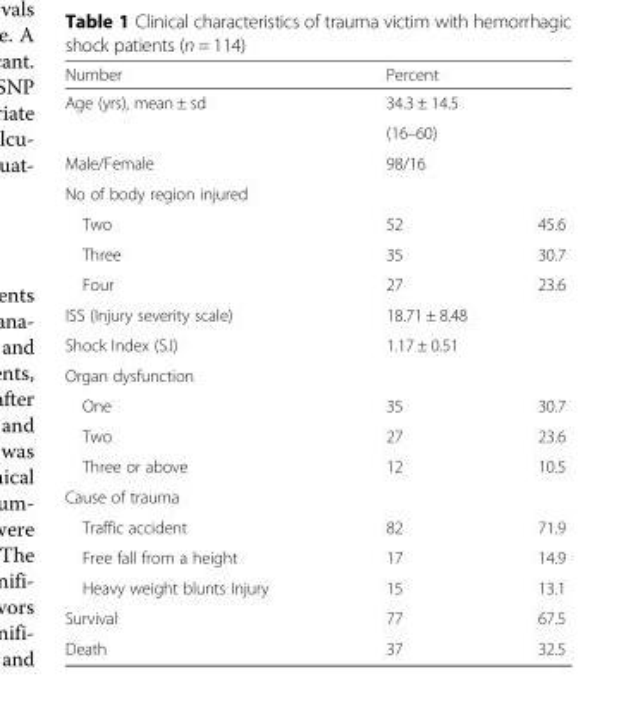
<table><thead><tr><td>Number</td><td colspan="2">Percent</td></tr></thead><tbody><tr><td rowspan="2">Age (yrs), mean ± sd</td><td colspan="2">34.3 ± 14.5</td></tr><tr><td colspan="2">(16–60)</td></tr><tr><td>Male/Female</td><td colspan="2">98/16</td></tr><tr><td colspan="3">No of body region injured</td></tr><tr><td>Two</td><td>52</td><td>45.6</td></tr><tr><td>Three</td><td>35</td><td>30.7</td></tr><tr><td>Four</td><td>27</td><td>23.6</td></tr><tr><td>ISS (Injury severity scale)</td><td colspan="2">18.71 ± 8.48</td></tr><tr><td>Shock Index (S.I)</td><td colspan="2">1.17 ± 0.51</td></tr><tr><td colspan="3">Organ dysfunction</td></tr><tr><td>One</td><td>35</td><td>30.7</td></tr><tr><td>Two</td><td>27</td><td>23.6</td></tr><tr><td>Three or above</td><td>12</td><td>10.5</td></tr><tr><td colspan="3">Cause of trauma</td></tr><tr><td>Traffic accident</td><td>82</td><td>71.9</td></tr><tr><td>Free fall from a height</td><td>17</td><td>14.9</td></tr><tr><td>Heavy weight blunts Injury</td><td>15</td><td>13.1</td></tr><tr><td>Survival</td><td>77</td><td>67.5</td></tr><tr><td>Death</td><td>37</td><td>32.5</td></tr></tbody></table>